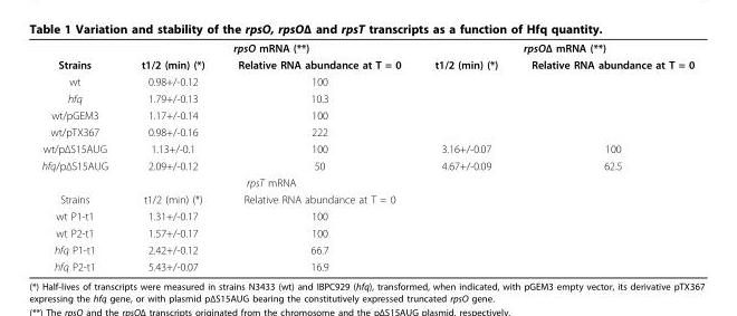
<table><thead><tr><td rowspan="2">Strains</td><td colspan="2">rpsO mRNA (**)</td><td colspan="2">rpsOΔ mRNA (**)</td></tr><tr><td>t1/2 (min) (*)</td><td>Relative RNA abundance at T = 0</td><td>t1/2 (min) (*)</td><td>Relative RNA abundance at T = 0</td></tr></thead><tbody><tr><td>wt</td><td>0.98+/-0.12</td><td>100</td><td></td><td></td></tr><tr><td>hfq</td><td>1.79+/-0.13</td><td>10.3</td><td></td><td></td></tr><tr><td>wt/pGEM3</td><td>1.17+/-0.14</td><td>100</td><td></td><td></td></tr><tr><td>wt/pTX367</td><td>0.98+/-0.16</td><td>222</td><td></td><td></td></tr><tr><td>wt/pΔS15AUG</td><td>1.13+/-0.1</td><td>100</td><td>3.16+/-0.07</td><td>100</td></tr><tr><td rowspan="2">hfq/pΔS15AUG</td><td>2.09+/-0.12</td><td>50</td><td>4.67+/-0.09</td><td>62.5</td></tr><tr><td colspan="2">rpsT mRNA</td><td></td><td></td></tr><tr><td>Strains</td><td>t1/2 (min) (*)</td><td>Relative RNA abundance at T = 0</td><td></td><td></td></tr><tr><td>wt P1-t1</td><td>1.31+/-0.17</td><td>100</td><td></td><td></td></tr><tr><td>wt P2-t1</td><td>1.57+/-0.17</td><td>100</td><td></td><td></td></tr><tr><td>hfq P1-t1</td><td>2.42+/-0.12</td><td>66.7</td><td></td><td></td></tr><tr><td>hfq P2-t1</td><td>5.43+/-0.07</td><td>16.9</td><td></td><td></td></tr></tbody></table>